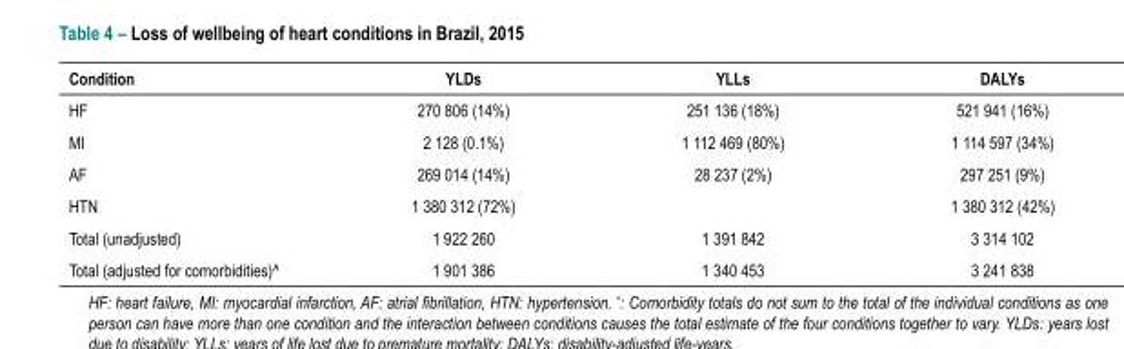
<table><thead><tr><td>Condition</td><td>YLDs</td><td>YLLs</td><td>DALYs</td></tr></thead><tbody><tr><td>HF</td><td>270 806 (14%)</td><td>251 136 (18%)</td><td>521 941 (16%)</td></tr><tr><td>MI</td><td>2 128 (0.1%)</td><td>1 112 469 (80%)</td><td>1 114 597 (34%)</td></tr><tr><td>AF</td><td>269 014 (14%)</td><td>28 237 (2%)</td><td>297 251 (9%)</td></tr><tr><td>HTN</td><td>1 380 312 (72%)</td><td></td><td>1 380 312 (42%)</td></tr><tr><td>Total (unadjusted)</td><td>1 922 260</td><td>1 391 842</td><td>3 314 102</td></tr><tr><td>Total (adjusted for comorbidities)^</td><td>1 901 386</td><td>1 340 453</td><td>3 241 838</td></tr></tbody></table>